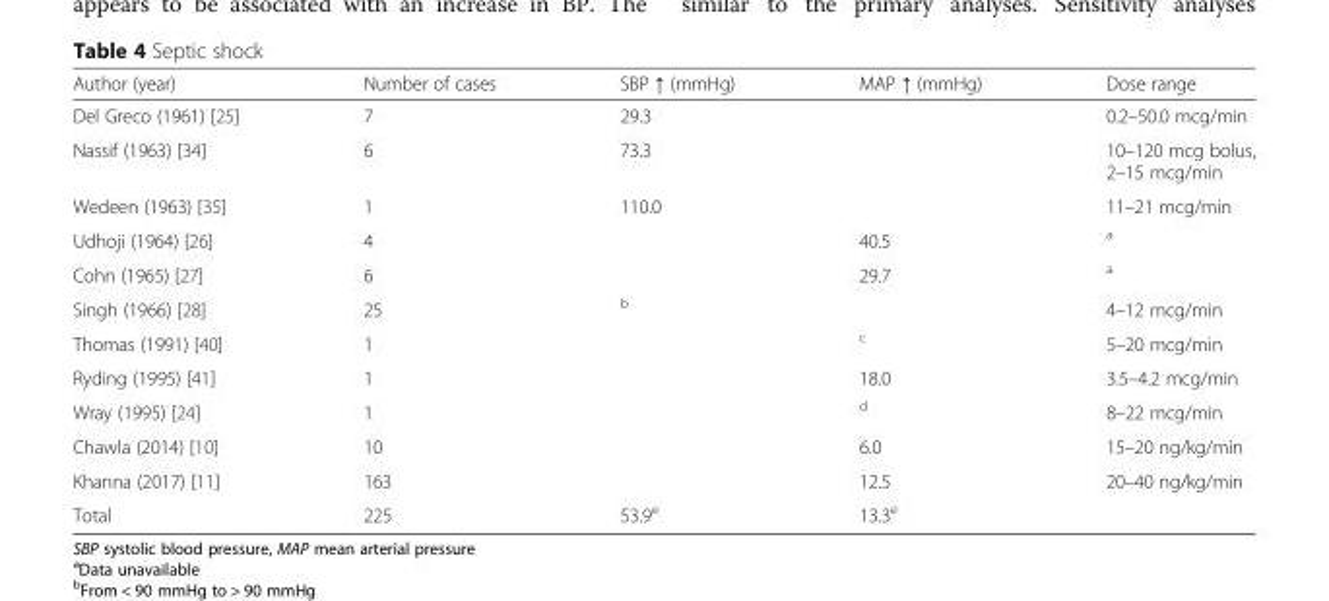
<table><thead><tr><td>Author (year)</td><td>Number of cases</td><td>SBP ↑ (mmHg)</td><td>MAP ↑ (mmHg)</td><td>Dose range</td></tr></thead><tbody><tr><td>Del Greco (1961) [25]</td><td>7</td><td>29.3</td><td></td><td>0.2–50.0 mcg/min</td></tr><tr><td>Nassif (1963) [34]</td><td>6</td><td>73.3</td><td></td><td>10–120 mcg bolus, 2–15 mcg/min</td></tr><tr><td>Wedeen (1963) [35]</td><td>1</td><td>110.0</td><td></td><td>11–21 mcg/min</td></tr><tr><td>Udhoji (1964) [26]</td><td>4</td><td></td><td>40.5</td><td><sup>a</sup></td></tr><tr><td>Cohn (1965) [27]</td><td>6</td><td></td><td>29.7</td><td><sup>a</sup></td></tr><tr><td>Singh (1966) [28]</td><td>25</td><td><sup>b</sup></td><td></td><td>4–12 mcg/min</td></tr><tr><td>Thomas (1991) [40]</td><td>1</td><td></td><td><sup>c</sup></td><td>5–20 mcg/min</td></tr><tr><td>Ryding (1995) [41]</td><td>1</td><td></td><td>18.0</td><td>3.5–4.2 mcg/min</td></tr><tr><td>Wray (1995) [24]</td><td>1</td><td></td><td><sup>d</sup></td><td>8–22 mcg/min</td></tr><tr><td>Chawla (2014) [10]</td><td>10</td><td></td><td>6.0</td><td>15–20 ng/kg/min</td></tr><tr><td>Khanna (2017) [11]</td><td>163</td><td></td><td>12.5</td><td>20–40 ng/kg/min</td></tr><tr><td>Total</td><td>225</td><td>53.9<sup>e</sup></td><td>13.3<sup>e</sup></td><td></td></tr></tbody></table>